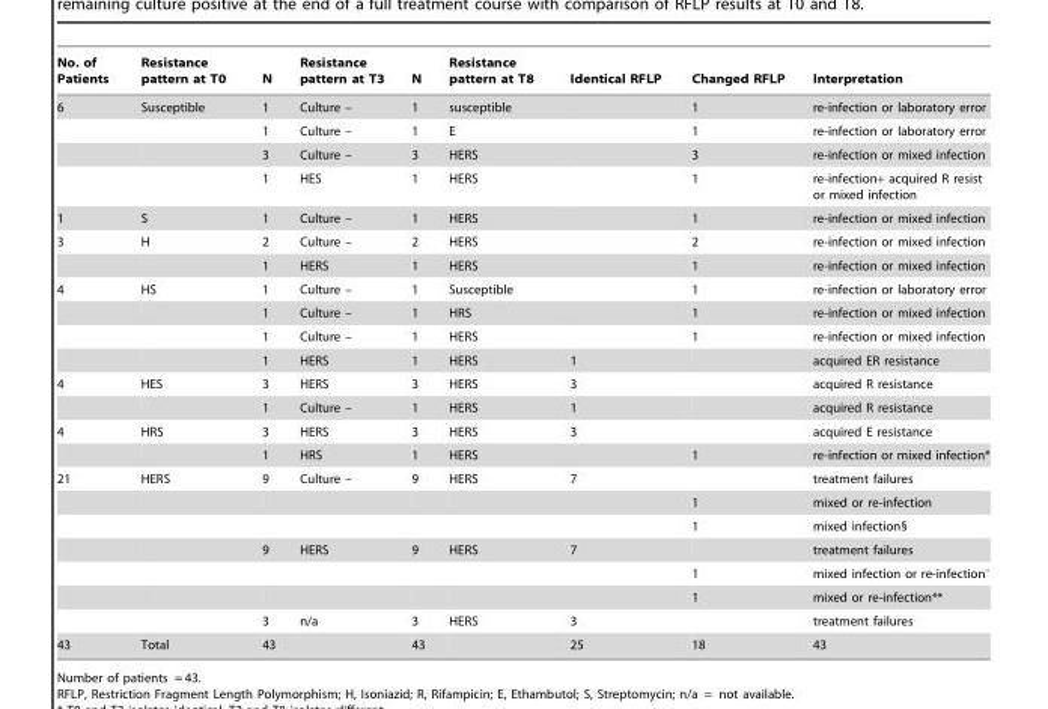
<table><thead><tr><td>No. of Patients</td><td>Resistance pattern at T0</td><td>N</td><td>Resistance pattern at T3</td><td>N</td><td>Resistance pattern at T8</td><td>Identical RFLP</td><td>Changed RFLP</td><td>Interpretation</td></tr></thead><tbody><tr><td rowspan="4">6</td><td>Susceptible</td><td>1</td><td>Culture –</td><td>1</td><td>susceptible</td><td></td><td>1</td><td>re-infection or laboratory error</td></tr><tr><td></td><td>1</td><td>Culture –</td><td>1</td><td>E</td><td></td><td>1</td><td>re-infection or laboratory error</td></tr><tr><td></td><td>3</td><td>Culture –</td><td>3</td><td>HERS</td><td></td><td>3</td><td>re-infection or mixed infection</td></tr><tr><td></td><td>1</td><td>HES</td><td>1</td><td>HERS</td><td></td><td>1</td><td>re-infection+ acquired R resist or mixed infection</td></tr><tr><td>1</td><td>S</td><td>1</td><td>Culture –</td><td>1</td><td>HERS</td><td></td><td>1</td><td>re-infection or mixed infection</td></tr><tr><td rowspan="2">3</td><td>H</td><td>2</td><td>Culture –</td><td>2</td><td>HERS</td><td></td><td>2</td><td>re-infection or mixed infection</td></tr><tr><td></td><td>1</td><td>HERS</td><td>1</td><td>HERS</td><td></td><td>1</td><td>re-infection or mixed infection</td></tr><tr><td rowspan="4">4</td><td>HS</td><td>1</td><td>Culture –</td><td>1</td><td>Susceptible</td><td></td><td>1</td><td>re-infection or laboratory error</td></tr><tr><td></td><td>1</td><td>Culture –</td><td>1</td><td>HRS</td><td></td><td>1</td><td>re-infection or mixed infection</td></tr><tr><td></td><td>1</td><td>Culture –</td><td>1</td><td>HERS</td><td></td><td>1</td><td>re-infection or mixed infection</td></tr><tr><td></td><td>1</td><td>HERS</td><td>1</td><td>HERS</td><td>1</td><td></td><td>acquired ER resistance</td></tr><tr><td rowspan="2">4</td><td>HES</td><td>3</td><td>HERS</td><td>3</td><td>HERS</td><td>3</td><td></td><td>acquired R resistance</td></tr><tr><td></td><td>1</td><td>Culture –</td><td>1</td><td>HERS</td><td>1</td><td></td><td>acquired R resistance</td></tr><tr><td rowspan="2">4</td><td>HRS</td><td>3</td><td>HERS</td><td>3</td><td>HERS</td><td>3</td><td></td><td>acquired E resistance</td></tr><tr><td></td><td>1</td><td>HRS</td><td>1</td><td>HERS</td><td></td><td>1</td><td>re-infection or mixed infection*</td></tr><tr><td rowspan="7">21</td><td>HERS</td><td>9</td><td>Culture –</td><td>9</td><td>HERS</td><td>7</td><td></td><td>treatment failures</td></tr><tr><td></td><td></td><td></td><td></td><td></td><td></td><td>1</td><td>mixed or re-infection</td></tr><tr><td></td><td></td><td></td><td></td><td></td><td></td><td>1</td><td>mixed infection§</td></tr><tr><td></td><td>9</td><td>HERS</td><td>9</td><td>HERS</td><td>7</td><td></td><td>treatment failures</td></tr><tr><td></td><td></td><td></td><td></td><td></td><td></td><td>1</td><td>mixed infection or re-infection°</td></tr><tr><td></td><td></td><td></td><td></td><td></td><td></td><td>1</td><td>mixed or re-infection**</td></tr><tr><td></td><td>3</td><td>n/a</td><td>3</td><td>HERS</td><td>3</td><td></td><td>treatment failures</td></tr><tr><td>43</td><td>Total</td><td>43</td><td></td><td>43</td><td></td><td>25</td><td>18</td><td>43</td></tr></tbody></table>